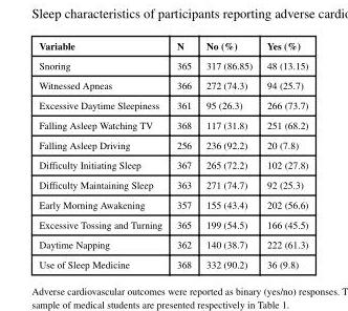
<table><thead><tr><td>Variable</td><td>N</td><td>No (%)</td><td>Yes (%)</td></tr></thead><tbody><tr><td>Snoring</td><td>365</td><td>317 (86.85)</td><td>48 (13.15)</td></tr><tr><td>Witnessed Apneas</td><td>366</td><td>272 (74.3)</td><td>94 (25.7)</td></tr><tr><td>Excessive Daytime Sleepiness</td><td>361</td><td>95 (26.3)</td><td>266 (73.7)</td></tr><tr><td>Falling Asleep Watching TV</td><td>368</td><td>117 (31.8)</td><td>251 (68.2)</td></tr><tr><td>Falling Asleep Driving</td><td>256</td><td>236 (92.2)</td><td>20 (7.8)</td></tr><tr><td>Difficulty Initiating Sleep</td><td>367</td><td>265 (72.2)</td><td>102 (27.8)</td></tr><tr><td>Difficulty Maintaining Sleep</td><td>363</td><td>271 (74.7)</td><td>92 (25.3)</td></tr><tr><td>Early Morning Awakening</td><td>357</td><td>155 (43.4)</td><td>202 (56.6)</td></tr><tr><td>Excessive Tossing and Turning</td><td>365</td><td>199 (54.5)</td><td>166 (45.5)</td></tr><tr><td>Daytime Napping</td><td>362</td><td>140 (38.7)</td><td>222 (61.3)</td></tr><tr><td>Use of Sleep Medicine</td><td>368</td><td>332 (90.2)</td><td>36 (9.8)</td></tr></tbody></table>